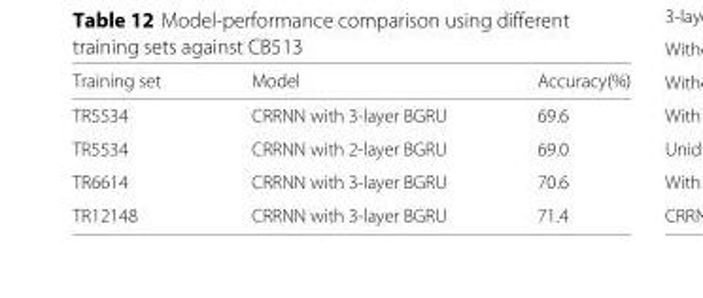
<table><thead><tr><td>Training set</td><td>Model</td><td>Accuracy(%)</td></tr></thead><tbody><tr><td>TR5534</td><td>CRRNN with 3-layer BGRU</td><td>69.6</td></tr><tr><td>TR5534</td><td>CRRNN with 2-layer BGRU</td><td>69.0</td></tr><tr><td>TR6614</td><td>CRRNN with 3-layer BGRU</td><td>70.6</td></tr><tr><td>TR12148</td><td>CRRNN with 3-layer BGRU</td><td>71.4</td></tr></tbody></table>